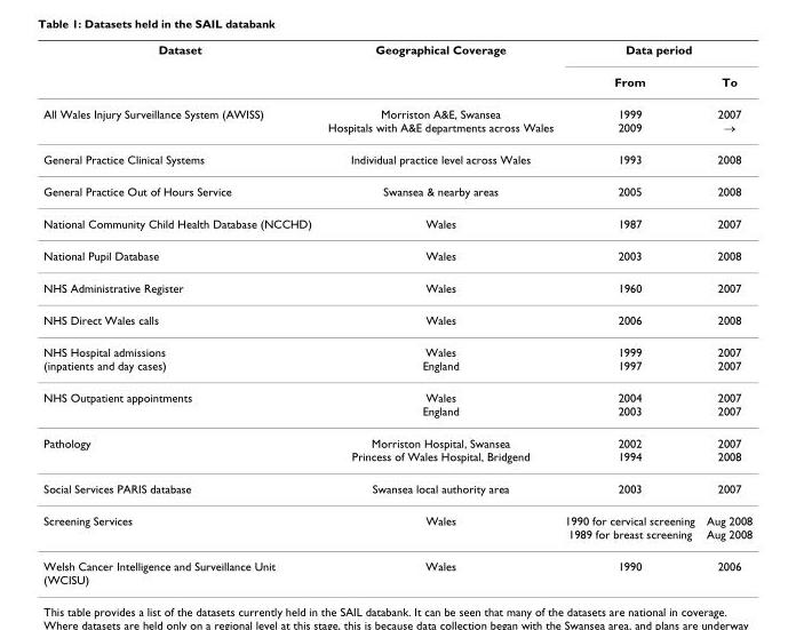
<table><thead><tr><td rowspan="2">Dataset</td><td rowspan="2">Geographical Coverage</td><td colspan="2">Data period</td></tr><tr><td>From</td><td>To</td></tr></thead><tbody><tr><td>All Wales Injury Surveillance System (AWISS)</td><td>Morriston A&amp;E, Swansea Hospitals with A&amp;E departments across Wales</td><td>1999 2009</td><td>2007 →</td></tr><tr><td>General Practice Clinical Systems</td><td>Individual practice level across Wales</td><td>1993</td><td>2008</td></tr><tr><td>General Practice Out of Hours Service</td><td>Swansea &amp; nearby areas</td><td>2005</td><td>2008</td></tr><tr><td>National Community Child Health Database (NCCHD)</td><td>Wales</td><td>1987</td><td>2007</td></tr><tr><td>National Pupil Database</td><td>Wales</td><td>2003</td><td>2008</td></tr><tr><td>NHS Administrative Register</td><td>Wales</td><td>1960</td><td>2007</td></tr><tr><td>NHS Direct Wales calls</td><td>Wales</td><td>2006</td><td>2008</td></tr><tr><td>NHS Hospital admissions (inpatients and day cases)</td><td>Wales England</td><td>1999 1997</td><td>2007 2007</td></tr><tr><td>NHS Outpatient appointments</td><td>Wales England</td><td>2004 2003</td><td>2007 2007</td></tr><tr><td>Pathology</td><td>Morriston Hospital, Swansea Princess of Wales Hospital, Bridgend</td><td>2002 1994</td><td>2007 2008</td></tr><tr><td>Social Services PARIS database</td><td>Swansea local authority area</td><td>2003</td><td>2007</td></tr><tr><td>Screening Services</td><td>Wales</td><td>1990 for cervical screening 1989 for breast screening</td><td>Aug 2008 Aug 2008</td></tr><tr><td>Welsh Cancer Intelligence and Surveillance Unit (WCISU)</td><td>Wales</td><td>1990</td><td>2006</td></tr></tbody></table>